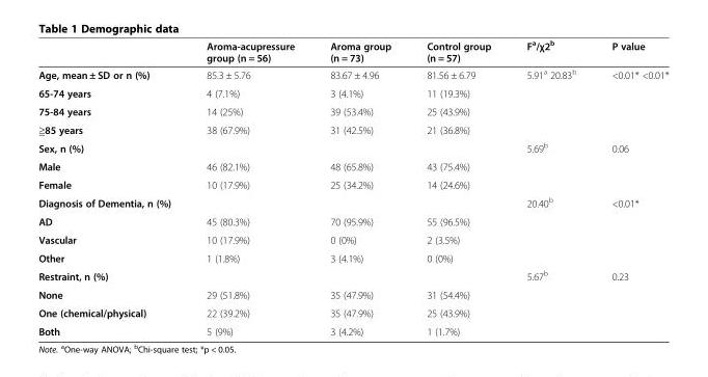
<table><thead><tr><td></td><td>Aroma-acupressure group (n = 56)</td><td>Aroma group (n = 73)</td><td>Control group (n = 57)</td><td>F<sup>a</sup>/χ2<sup>b</sup></td><td>P value</td></tr></thead><tbody><tr><td>Age, mean ± SD or n (%)</td><td>85.3 ± 5.76</td><td>83.67 ± 4.96</td><td>81.56 ± 6.79</td><td>5.91<sup>a</sup> 20.83<sup>b</sup></td><td>&lt;0.01* &lt;0.01*</td></tr><tr><td>65-74 years</td><td>4 (7.1%)</td><td>3 (4.1%)</td><td>11 (19.3%)</td><td></td><td></td></tr><tr><td>75-84 years</td><td>14 (25%)</td><td>39 (53.4%)</td><td>25 (43.9%)</td><td></td><td></td></tr><tr><td>≧85 years</td><td>38 (67.9%)</td><td>31 (42.5%)</td><td>21 (36.8%)</td><td></td><td></td></tr><tr><td>Sex, n (%)</td><td></td><td></td><td></td><td>5.69<sup>b</sup></td><td>0.06</td></tr><tr><td>Male</td><td>46 (82.1%)</td><td>48 (65.8%)</td><td>43 (75.4%)</td><td></td><td></td></tr><tr><td>Female</td><td>10 (17.9%)</td><td>25 (34.2%)</td><td>14 (24.6%)</td><td></td><td></td></tr><tr><td>Diagnosis of Dementia, n (%)</td><td></td><td></td><td></td><td>20.40<sup>b</sup></td><td>&lt;0.01*</td></tr><tr><td>AD</td><td>45 (80.3%)</td><td>70 (95.9%)</td><td>55 (96.5%)</td><td></td><td></td></tr><tr><td>Vascular</td><td>10 (17.9%)</td><td>0 (0%)</td><td>2 (3.5%)</td><td></td><td></td></tr><tr><td>Other</td><td>1 (1.8%)</td><td>3 (4.1%)</td><td>0 (0%)</td><td></td><td></td></tr><tr><td>Restraint, n (%)</td><td></td><td></td><td></td><td>5.67<sup>b</sup></td><td>0.23</td></tr><tr><td>None</td><td>29 (51.8%)</td><td>35 (47.9%)</td><td>31 (54.4%)</td><td></td><td></td></tr><tr><td>One (chemical/physical)</td><td>22 (39.2%)</td><td>35 (47.9%)</td><td>25 (43.9%)</td><td></td><td></td></tr><tr><td>Both</td><td>5 (9%)</td><td>3 (4.2%)</td><td>1 (1.7%)</td><td></td><td></td></tr></tbody></table>